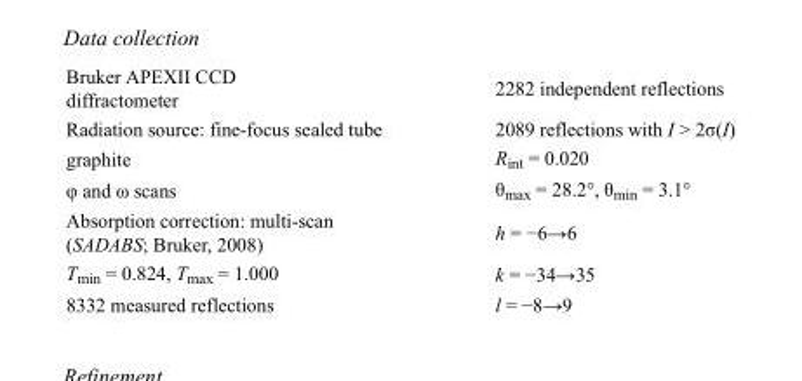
<table><tbody><tr><td>Bruker APEXII CCD diffractometer</td><td>2282 independent reflections</td></tr><tr><td>Radiation source: fine-focus sealed tube</td><td>2089 reflections with I &gt; 2σ(I)</td></tr><tr><td>graphite</td><td>R<sub>int</sub> = 0.020</td></tr><tr><td>φ and ω scans</td><td>θ<sub>max</sub> = 28.2°, θ<sub>min</sub> = 3.1°</td></tr><tr><td>Absorption correction: multi-scan (SADABS; Bruker, 2008)</td><td>h = −6→6</td></tr><tr><td>T<sub>min</sub> = 0.824, T<sub>max</sub> = 1.000</td><td>k = −34→35</td></tr><tr><td>8332 measured reflections</td><td>l = −8→9</td></tr></tbody></table>